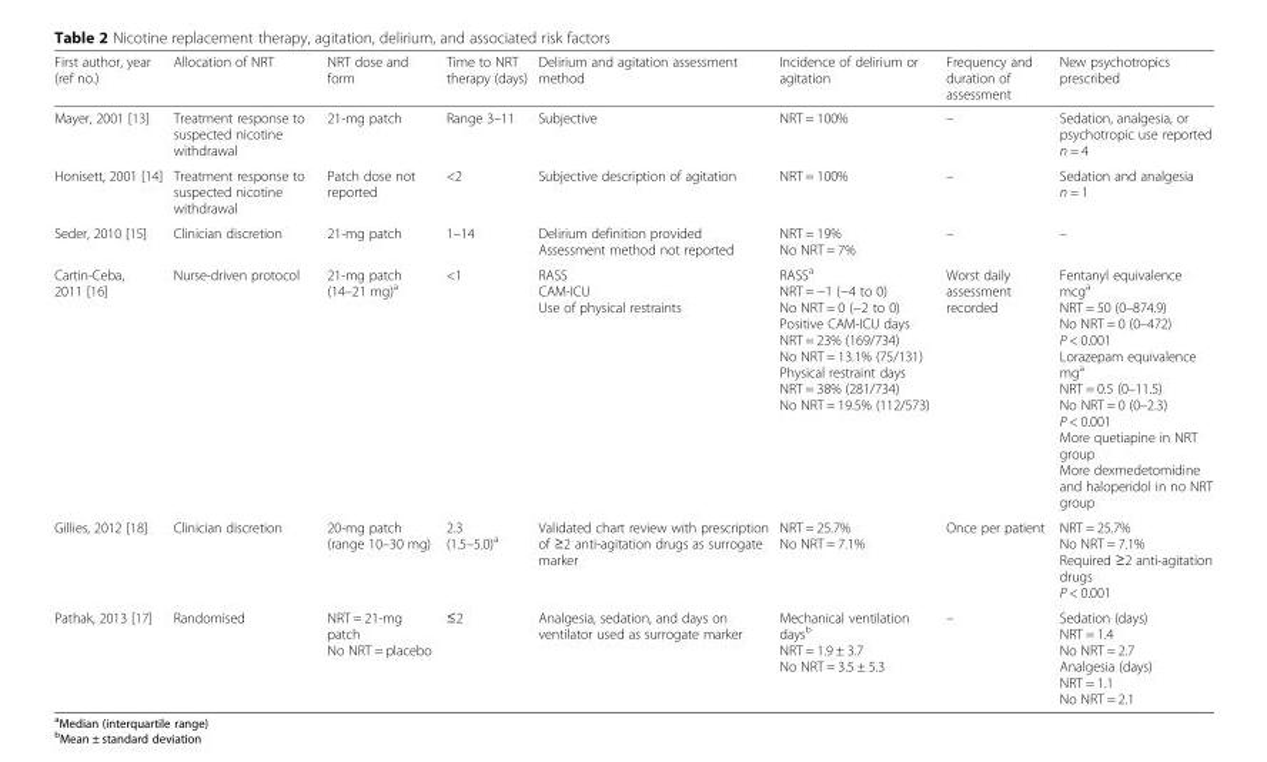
<table><thead><tr><td>First author, year (ref no.)</td><td>Allocation of NRT</td><td>NRT dose and form</td><td>Time to NRT therapy (days)</td><td>Delirium and agitation assessment method</td><td>Incidence of delirium or agitation</td><td>Frequency and duration of assessment</td><td>New psychotropics prescribed</td></tr></thead><tbody><tr><td>Mayer, 2001 [13]</td><td>Treatment response to suspected nicotine withdrawal</td><td>21-mg patch</td><td>Range 3–11</td><td>Subjective</td><td>NRT = 100%</td><td>–</td><td>Sedation, analgesia, or psychotropic use reported n = 4</td></tr><tr><td>Honisett, 2001 [14]</td><td>Treatment response to suspected nicotine withdrawal</td><td>Patch dose not reported</td><td>&lt;2</td><td>Subjective description of agitation</td><td>NRT = 100%</td><td>–</td><td>Sedation and analgesia n = 1</td></tr><tr><td>Seder, 2010 [15]</td><td>Clinician discretion</td><td>21-mg patch</td><td>1–14</td><td>Delirium definition provided Assessment method not reported</td><td>NRT = 19% No NRT = 7%</td><td>–</td><td>–</td></tr><tr><td>Cartin-Ceba, 2011 [16]</td><td>Nurse-driven protocol</td><td>21-mg patch (14–21 mg)<sup>a</sup></td><td>&lt;1</td><td>RASS CAM-ICU Use of physical restraints</td><td>RASS<sup>a</sup> NRT = −1 (−4 to 0) No NRT = 0 (−2 to 0) Positive CAM-ICU days NRT = 23% (169/734) No NRT = 13.1% (75/131) Physical restraint days NRT = 38% (281/734) No NRT = 19.5% (112/573)</td><td>Worst daily assessment recorded</td><td>Fentanyl equivalence mcg<sup>a</sup> NRT = 50 (0–874.9) No NRT = 0 (0–472) P &lt; 0.001 Lorazepam equivalence mg<sup>a</sup> NRT = 0.5 (0–11.5) No NRT = 0 (0–2.3) P &lt; 0.001 More quetiapine in NRT group More dexmedetomidine and haloperidol in no NRT group</td></tr><tr><td>Gillies, 2012 [18]</td><td>Clinician discretion</td><td>20-mg patch (range 10–30 mg)</td><td>2.3 (1.5–5.0)<sup>a</sup></td><td>Validated chart review with prescription of ≥2 anti-agitation drugs as surrogate marker</td><td>NRT = 25.7% No NRT = 7.1%</td><td>Once per patient</td><td>NRT = 25.7% No NRT = 7.1% Required ≥2 anti-agitation drugs P &lt; 0.001</td></tr><tr><td>Pathak, 2013 [17]</td><td>Randomised</td><td>NRT = 21-mg patch No NRT = placebo</td><td>≤2</td><td>Analgesia, sedation, and days on ventilator used as surrogate marker</td><td>Mechanical ventilation days<sup>b</sup> NRT = 1.9 ± 3.7 No NRT = 3.5 ± 5.3</td><td>–</td><td>Sedation (days) NRT = 1.4 No NRT = 2.7 Analgesia (days) NRT = 1.1 No NRT = 2.1</td></tr></tbody></table>